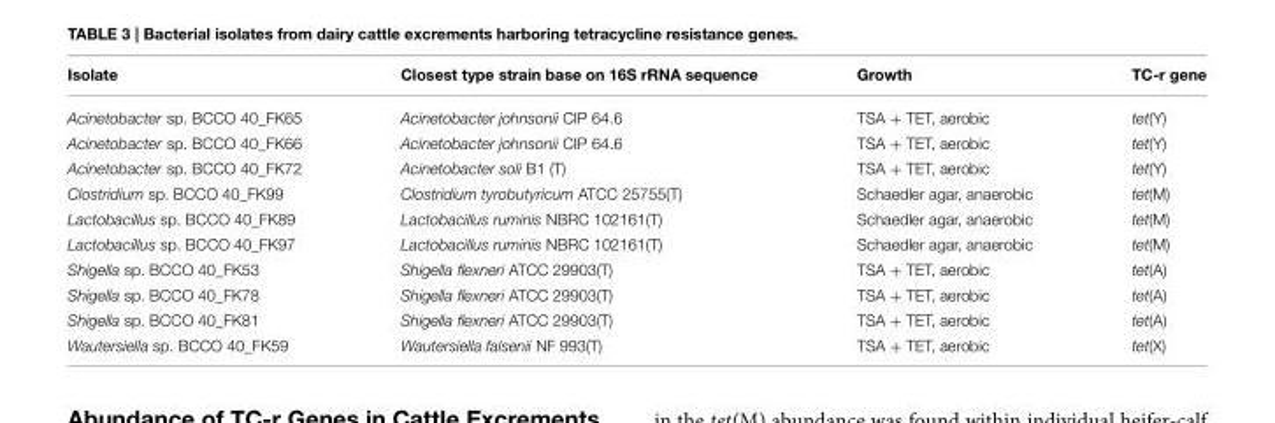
<table><thead><tr><td>Isolate</td><td>Closest type strain base on 16S rRNA sequence</td><td>Growth</td><td>TC-r gene</td></tr></thead><tbody><tr><td>Acinetobacter sp. BCCO 40_FK65</td><td>Acinetobacter johnsonii CIP 64.6</td><td>TSA + TET, aerobic</td><td>tet(Y)</td></tr><tr><td>Acinetobacter sp. BCCO 40_FK66</td><td>Acinetobacter johnsonii CIP 64.6</td><td>TSA + TET, aerobic</td><td>tet(Y)</td></tr><tr><td>Acinetobacter sp. BCCO 40_FK72</td><td>Acinetobacter soli B1 (T)</td><td>TSA + TET, aerobic</td><td>tet(Y)</td></tr><tr><td>Clostridium sp. BCCO 40_FK99</td><td>Clostridium tyrobutyricum ATCC 25755(T)</td><td>Schaedler agar, anaerobic</td><td>tet(M)</td></tr><tr><td>Lactobacillus sp. BCCO 40_FK89</td><td>Lactobacillus ruminis NBRC 102161(T)</td><td>Schaedler agar, anaerobic</td><td>tet(M)</td></tr><tr><td>Lactobacillus sp. BCCO 40_FK97</td><td>Lactobacillus ruminis NBRC 102161(T)</td><td>Schaedler agar, anaerobic</td><td>tet(M)</td></tr><tr><td>Shigella sp. BCCO 40_FK53</td><td>Shigella flexneri ATCC 29903(T)</td><td>TSA + TET, aerobic</td><td>tet(A)</td></tr><tr><td>Shigella sp. BCCO 40_FK78</td><td>Shigella flexneri ATCC 29903(T)</td><td>TSA + TET, aerobic</td><td>tet(A)</td></tr><tr><td>Shigella sp. BCCO 40_FK81</td><td>Shigella flexneri ATCC 29903(T)</td><td>TSA + TET, aerobic</td><td>tet(A)</td></tr><tr><td>Wautersiella sp. BCCO 40_FK59</td><td>Wautersiella falsenii NF 993(T)</td><td>TSA + TET, aerobic</td><td>tet(X)</td></tr></tbody></table>